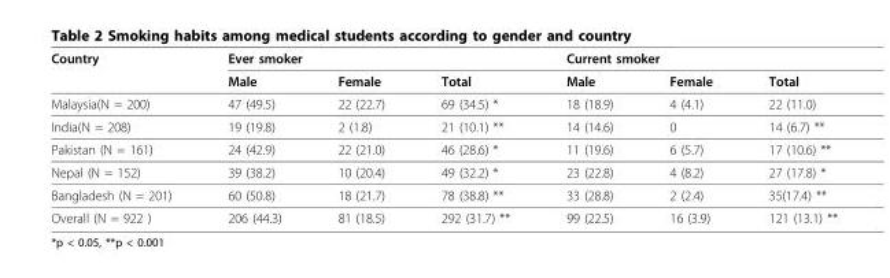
<table><thead><tr><td rowspan="2">Country</td><td colspan="3">Ever smoker</td><td colspan="3">Current smoker</td></tr><tr><td>Male</td><td>Female</td><td>Total</td><td>Male</td><td>Female</td><td>Total</td></tr></thead><tbody><tr><td>Malaysia(N = 200)</td><td>47 (49.5)</td><td>22 (22.7)</td><td>69 (34.5) *</td><td>18 (18.9)</td><td>4 (4.1)</td><td>22 (11.0)</td></tr><tr><td>India(N = 208)</td><td>19 (19.8)</td><td>2 (1.8)</td><td>21 (10.1) **</td><td>14 (14.6)</td><td>0</td><td>14 (6.7) **</td></tr><tr><td>Pakistan (N = 161)</td><td>24 (42.9)</td><td>22 (21.0)</td><td>46 (28.6) *</td><td>11 (19.6)</td><td>6 (5.7)</td><td>17 (10.6) **</td></tr><tr><td>Nepal (N = 152)</td><td>39 (38.2)</td><td>10 (20.4)</td><td>49 (32.2) *</td><td>23 (22.8)</td><td>4 (8.2)</td><td>27 (17.8) *</td></tr><tr><td>Bangladesh (N = 201)</td><td>60 (50.8)</td><td>18 (21.7)</td><td>78 (38.8) **</td><td>33 (28.8)</td><td>2 (2.4)</td><td>35(17.4) **</td></tr><tr><td>Overall (N = 922 )</td><td>206 (44.3)</td><td>81 (18.5)</td><td>292 (31.7) **</td><td>99 (22.5)</td><td>16 (3.9)</td><td>121 (13.1) **</td></tr></tbody></table>